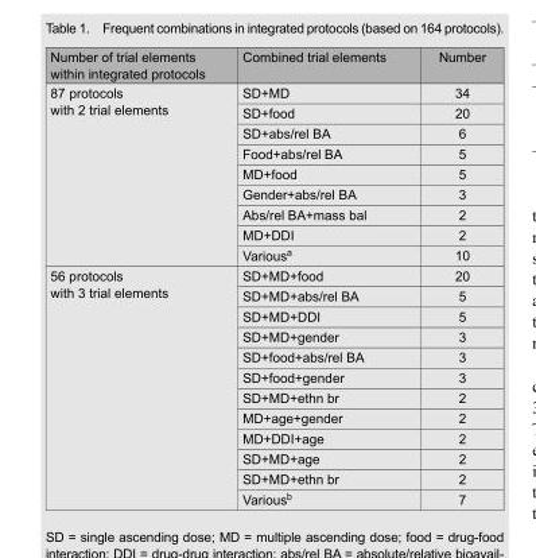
<table><thead><tr><td>Number of trial elements within integrated protocols</td><td>Combined trial elements</td><td>Number</td></tr></thead><tbody><tr><td rowspan="9">87 protocols with 2 trial elements</td><td>SD+MD</td><td>34</td></tr><tr><td>SD+food</td><td>20</td></tr><tr><td>SD+abs/rel BA</td><td>6</td></tr><tr><td>Food+abs/rel BA</td><td>5</td></tr><tr><td>MD+food</td><td>5</td></tr><tr><td>Gender+abs/rel BA</td><td>3</td></tr><tr><td>Abs/rel BA+mass bal</td><td>2</td></tr><tr><td>MD+DDI</td><td>2</td></tr><tr><td>Various<sup>a</sup></td><td>10</td></tr><tr><td rowspan="12">56 protocols with 3 trial elements</td><td>SD+MD+food</td><td>20</td></tr><tr><td>SD+MD+abs/rel BA</td><td>5</td></tr><tr><td>SD+MD+DDI</td><td>5</td></tr><tr><td>SD+MD+gender</td><td>3</td></tr><tr><td>SD+food+abs/rel BA</td><td>3</td></tr><tr><td>SD+food+gender</td><td>3</td></tr><tr><td>SD+MD+ethn br</td><td>2</td></tr><tr><td>MD+age+gender</td><td>2</td></tr><tr><td>MD+DDI+age</td><td>2</td></tr><tr><td>SD+MD+age</td><td>2</td></tr><tr><td>SD+MD+ethn br</td><td>2</td></tr><tr><td>Various<sup>b</sup></td><td>7</td></tr></tbody></table>